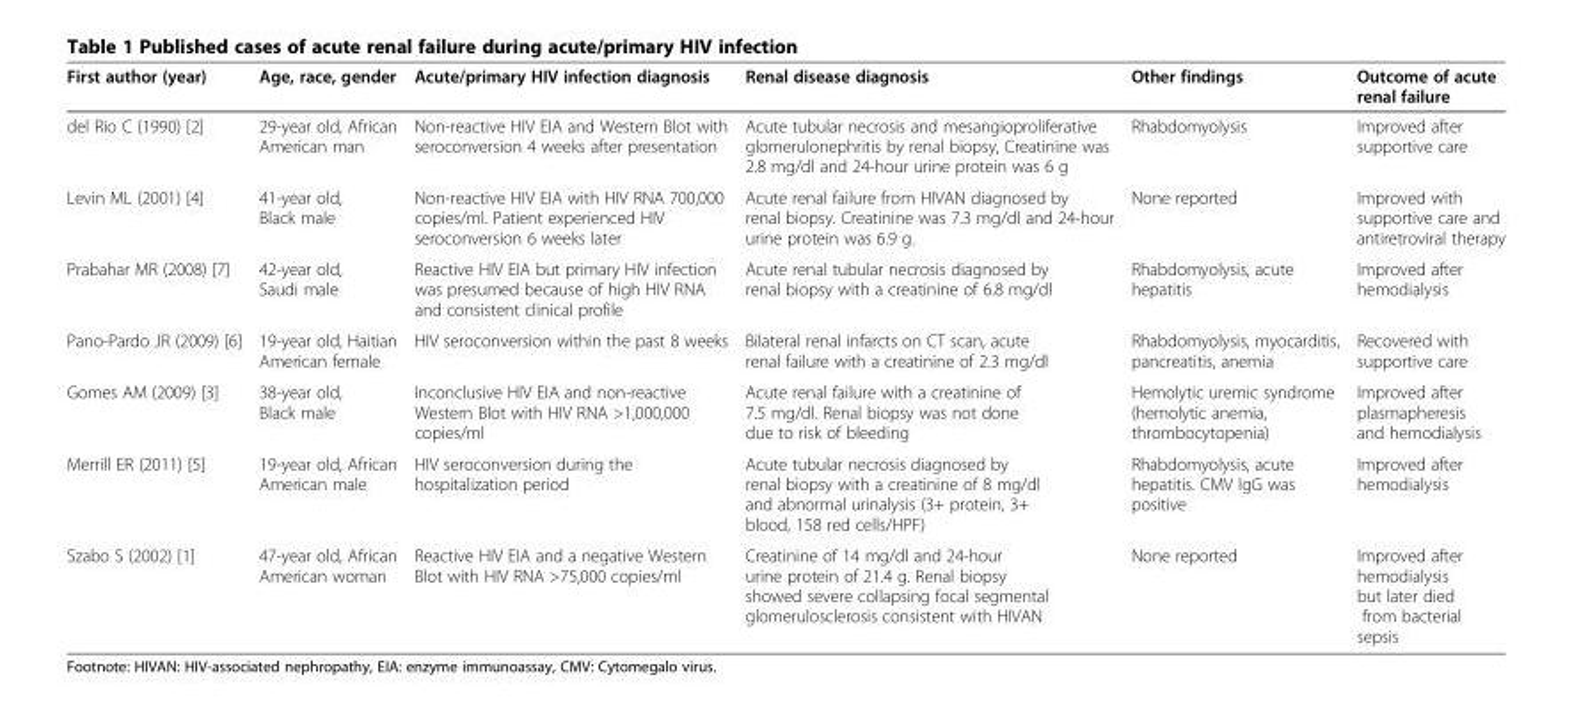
<table><thead><tr><td>First author (year)</td><td>Age, race, gender</td><td>Acute/primary HIV infection diagnosis</td><td>Renal disease diagnosis</td><td>Other findings</td><td>Outcome of acute renal failure</td></tr></thead><tbody><tr><td>del Rio C (1990) [2]</td><td>29-year old, African American man</td><td>Non-reactive HIV EIA and Western Blot with seroconversion 4 weeks after presentation</td><td>Acute tubular necrosis and mesangioproliferative glomerulonephritis by renal biopsy, Creatinine was 2.8 mg/dl and 24-hour urine protein was 6 g</td><td>Rhabdomyolysis</td><td>Improved after supportive care</td></tr><tr><td>Levin ML (2001) [4]</td><td>41-year old, Black male</td><td>Non-reactive HIV EIA with HIV RNA 700,000 copies/ml. Patient experienced HIV seroconversion 6 weeks later</td><td>Acute renal failure from HIVAN diagnosed by renal biopsy. Creatinine was 7.3 mg/dl and 24-hour urine protein was 6.9 g.</td><td>None reported</td><td>Improved with supportive care and antiretroviral therapy</td></tr><tr><td>Prabahar MR (2008) [7]</td><td>42-year old, Saudi male</td><td>Reactive HIV EIA but primary HIV infection was presumed because of high HIV RNA and consistent clinical profile</td><td>Acute renal tubular necrosis diagnosed by renal biopsy with a creatinine of 6.8 mg/dl</td><td>Rhabdomyolysis, acute hepatitis</td><td>Improved after hemodialysis</td></tr><tr><td>Pano-Pardo JR (2009) [6]</td><td>19-year old, Haitian American female</td><td>HIV seroconversion within the past 8 weeks</td><td>Bilateral renal infarcts on CT scan, acute renal failure with a creatinine of 2.3 mg/dl</td><td>Rhabdomyolysis, myocarditis, pancreatitis, anemia</td><td>Recovered with supportive care</td></tr><tr><td>Gomes AM (2009) [3]</td><td>38-year old, Black male</td><td>Inconclusive HIV EIA and non-reactive Western Blot with HIV RNA &gt;1,000,000 copies/ml</td><td>Acute renal failure with a creatinine of 7.5 mg/dl. Renal biopsy was not done due to risk of bleeding</td><td>Hemolytic uremic syndrome (hemolytic anemia, thrombocytopenia)</td><td>Improved after plasmapheresis and hemodialysis</td></tr><tr><td>Merrill ER (2011) [5]</td><td>19-year old, African American male</td><td>HIV seroconversion during the hospitalization period</td><td>Acute tubular necrosis diagnosed by renal biopsy with a creatinine of 8 mg/dl and abnormal urinalysis (3+ protein, 3+ blood, 158 red cells/HPF)</td><td>Rhabdomyolysis, acute hepatitis. CMV IgG was positive</td><td>Improved after hemodialysis</td></tr><tr><td>Szabo S (2002) [1]</td><td>47-year old, African American woman</td><td>Reactive HIV EIA and a negative Western Blot with HIV RNA &gt;75,000 copies/ml</td><td>Creatinine of 14 mg/dl and 24-hour urine protein of 21.4 g. Renal biopsy showed severe collapsing focal segmental glomerulosclerosis consistent with HIVAN</td><td>None reported</td><td>Improved after hemodialysis but later died from bacterial sepsis</td></tr></tbody></table>